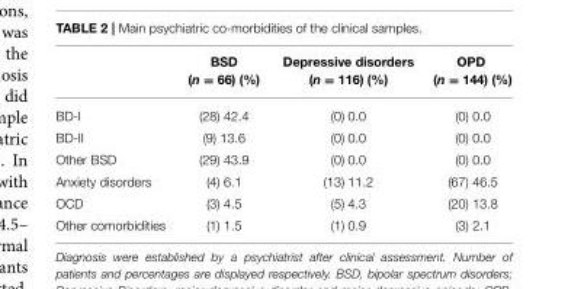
<table><thead><tr><td></td><td>BSD (n = 66) (%)</td><td>Depressive disorders (n = 116) (%)</td><td>OPD (n = 144) (%)</td></tr></thead><tbody><tr><td>BD-I</td><td>(28) 42.4</td><td>(0) 0.0</td><td>(0) 0.0</td></tr><tr><td>BD-II</td><td>(9) 13.6</td><td>(0) 0.0</td><td>(0) 0.0</td></tr><tr><td>Other BSD</td><td>(29) 43.9</td><td>(0) 0.0</td><td>(0) 0.0</td></tr><tr><td>Anxiety disorders</td><td>(4) 6.1</td><td>(13) 11.2</td><td>(67) 46.5</td></tr><tr><td>OCD</td><td>(3) 4.5</td><td>(5) 4.3</td><td>(20) 13.8</td></tr><tr><td>Other comorbidities</td><td>(1) 1.5</td><td>(1) 0.9</td><td>(3) 2.1</td></tr></tbody></table>